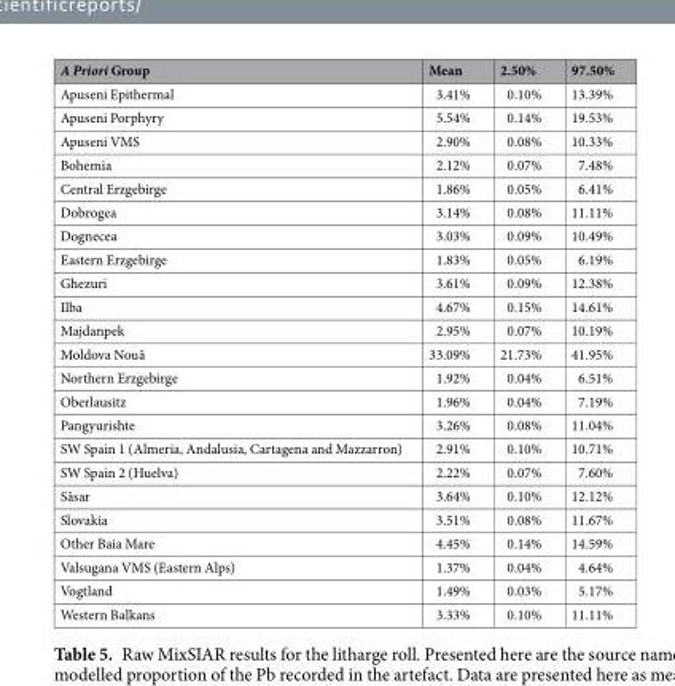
<table><thead><tr><td>A Priori Group</td><td>Mean</td><td>2.50%</td><td>97.50%</td></tr></thead><tbody><tr><td>Apuseni Epithermal</td><td>3.41%</td><td>0.10%</td><td>13.39%</td></tr><tr><td>Apuseni Porphyry</td><td>5.54%</td><td>0.14%</td><td>19.53%</td></tr><tr><td>Apuseni VMS</td><td>2.90%</td><td>0.08%</td><td>10.33%</td></tr><tr><td>Bohemia</td><td>2.12%</td><td>0.07%</td><td>7.48%</td></tr><tr><td>Central Erzgebirge</td><td>1.86%</td><td>0.05%</td><td>6.41%</td></tr><tr><td>Dobrogea</td><td>3.14%</td><td>0.08%</td><td>11.11%</td></tr><tr><td>Dognecea</td><td>3.03%</td><td>0.09%</td><td>10.49%</td></tr><tr><td>Eastern Erzgebirge</td><td>1.83%</td><td>0.05%</td><td>6.19%</td></tr><tr><td>Ghezuri</td><td>3.61%</td><td>0.09%</td><td>12.38%</td></tr><tr><td>Ilba</td><td>4.67%</td><td>0.15%</td><td>14.61%</td></tr><tr><td>Majdanpek</td><td>2.95%</td><td>0.07%</td><td>10.19%</td></tr><tr><td>Moldova Nouă</td><td>33.09%</td><td>21.73%</td><td>41.95%</td></tr><tr><td>Northern Erzgebirge</td><td>1.92%</td><td>0.04%</td><td>6.51%</td></tr><tr><td>Oberlausitz</td><td>1.96%</td><td>0.04%</td><td>7.19%</td></tr><tr><td>Pangyurishte</td><td>3.26%</td><td>0.08%</td><td>11.04%</td></tr><tr><td>SW Spain 1 (Almeria, Andalusia, Cartagena and Mazzarron)</td><td>2.91%</td><td>0.10%</td><td>10.71%</td></tr><tr><td>SW Spain 2 (Huelva)</td><td>2.22%</td><td>0.07%</td><td>7.60%</td></tr><tr><td>Săsar</td><td>3.64%</td><td>0.10%</td><td>12.12%</td></tr><tr><td>Slovakia</td><td>3.51%</td><td>0.08%</td><td>11.67%</td></tr><tr><td>Other Baia Mare</td><td>4.45%</td><td>0.14%</td><td>14.59%</td></tr><tr><td>Valsugana VMS (Eastern Alps)</td><td>1.37%</td><td>0.04%</td><td>4.64%</td></tr><tr><td>Vogtland</td><td>1.49%</td><td>0.03%</td><td>5.17%</td></tr><tr><td>Western Balkans</td><td>3.33%</td><td>0.10%</td><td>11.11%</td></tr></tbody></table>